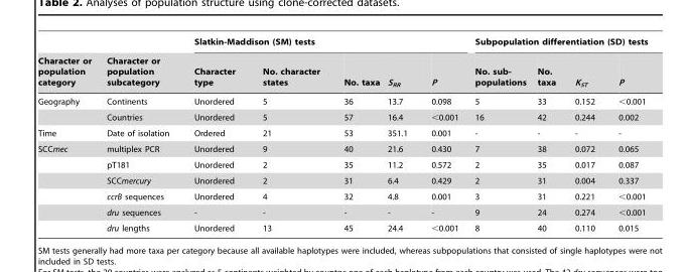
<table><thead><tr><td rowspan="2">Character or population category</td><td rowspan="2">Character or population subcategory</td><td colspan="5">Slatkin-Maddison (SM) tests</td><td colspan="4">Subpopulation differentiation (SD) tests</td></tr><tr><td>Character type</td><td>No. character states</td><td>No. taxa</td><td>S<sub>RR</sub></td><td>P</td><td>No. sub- populations</td><td>No. taxa</td><td>K<sub>ST</sub></td><td>P</td></tr></thead><tbody><tr><td rowspan="2">Geography</td><td>Continents</td><td>Unordered</td><td>5</td><td>36</td><td>13.7</td><td>0.098</td><td>5</td><td>33</td><td>0.152</td><td>&lt;0.001</td></tr><tr><td>Countries</td><td>Unordered</td><td>5</td><td>57</td><td>16.4</td><td>&lt;0.001</td><td>16</td><td>42</td><td>0.244</td><td>0.002</td></tr><tr><td>Time</td><td>Date of isolation</td><td>Ordered</td><td>21</td><td>53</td><td>351.1</td><td>0.001</td><td>-</td><td>-</td><td>-</td><td>-</td></tr><tr><td rowspan="6">SCCmec</td><td>multiplex PCR</td><td>Unordered</td><td>9</td><td>40</td><td>21.6</td><td>0.430</td><td>7</td><td>38</td><td>0.072</td><td>0.065</td></tr><tr><td>pT181</td><td>Unordered</td><td>2</td><td>35</td><td>11.2</td><td>0.572</td><td>2</td><td>35</td><td>0.017</td><td>0.087</td></tr><tr><td>SCCmercury</td><td>Unordered</td><td>2</td><td>31</td><td>6.4</td><td>0.429</td><td>2</td><td>31</td><td>0.004</td><td>0.337</td></tr><tr><td>ccrB sequences</td><td>Unordered</td><td>4</td><td>32</td><td>4.8</td><td>0.001</td><td>3</td><td>31</td><td>0.221</td><td>&lt;0.001</td></tr><tr><td>dru sequences</td><td>-</td><td>-</td><td>-</td><td>-</td><td>-</td><td>9</td><td>24</td><td>0.274</td><td>&lt;0.001</td></tr><tr><td>dru lengths</td><td>Unordered</td><td>13</td><td>45</td><td>24.4</td><td>&lt;0.001</td><td>8</td><td>40</td><td>0.110</td><td>0.015</td></tr></tbody></table>